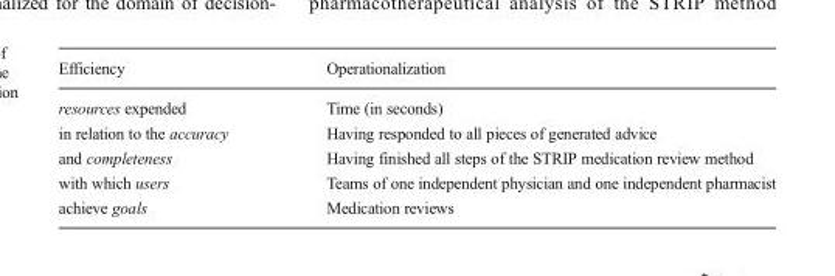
<table><thead><tr><td>Efficiency</td><td>Operationalization</td></tr></thead><tbody><tr><td>resources expended</td><td>Time (in seconds)</td></tr><tr><td>in relation to the accuracy</td><td>Having responded to all pieces of generated advice</td></tr><tr><td>and completeness</td><td>Having finished all steps of the STRIP medication review method</td></tr><tr><td>with which users</td><td>Teams of one independent physician and one independent pharmacist</td></tr><tr><td>achieve goals</td><td>Medication reviews</td></tr></tbody></table>